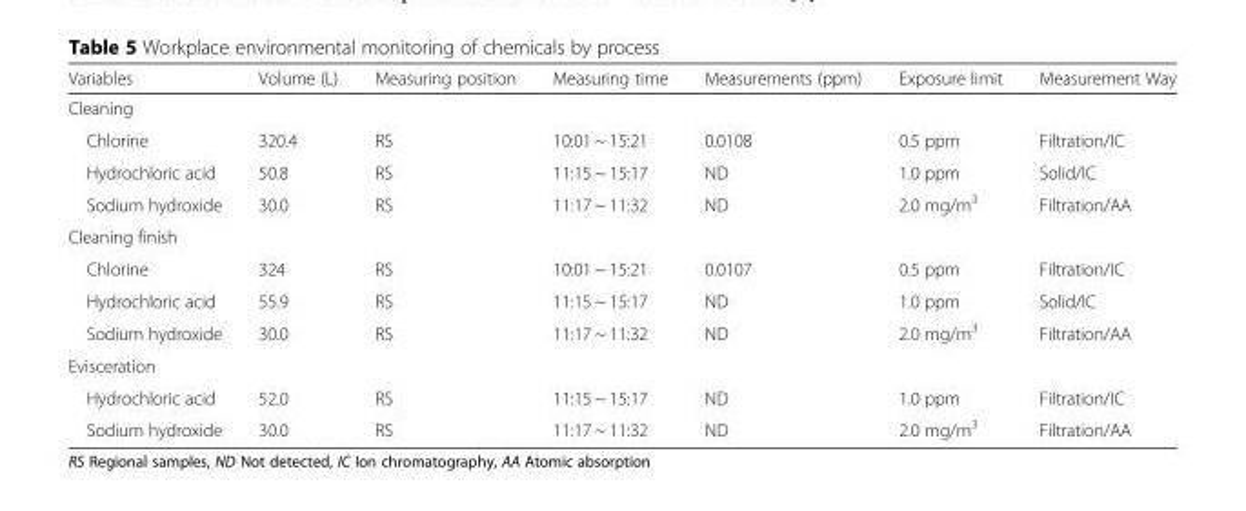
<table><thead><tr><td>Variables</td><td>Volume (L)</td><td>Measuring position</td><td>Measuring time</td><td>Measurements (ppm)</td><td>Exposure limit</td><td>Measurement Way</td></tr></thead><tbody><tr><td colspan="7">Cleaning</td></tr><tr><td>Chlorine</td><td>320.4</td><td>RS</td><td>10:01 ~ 15:21</td><td>0.0108</td><td>0.5 ppm</td><td>Filtration/IC</td></tr><tr><td>Hydrochloric acid</td><td>50.8</td><td>RS</td><td>11:15 ~ 15:17</td><td>ND</td><td>1.0 ppm</td><td>Solid/IC</td></tr><tr><td>Sodium hydroxide</td><td>30.0</td><td>RS</td><td>11:17 ~ 11:32</td><td>ND</td><td>2.0 mg/m<sup>3</sup></td><td>Filtration/AA</td></tr><tr><td colspan="7">Cleaning finish</td></tr><tr><td>Chlorine</td><td>324</td><td>RS</td><td>10:01 ~ 15:21</td><td>0.0107</td><td>0.5 ppm</td><td>Filtration/IC</td></tr><tr><td>Hydrochloric acid</td><td>55.9</td><td>RS</td><td>11:15 ~ 15:17</td><td>ND</td><td>1.0 ppm</td><td>Solid/IC</td></tr><tr><td>Sodium hydroxide</td><td>30.0</td><td>RS</td><td>11:17 ~ 11:32</td><td>ND</td><td>2.0 mg/m<sup>3</sup></td><td>Filtration/AA</td></tr><tr><td colspan="7">Evisceration</td></tr><tr><td>Hydrochloric acid</td><td>52.0</td><td>RS</td><td>11:15 ~ 15:17</td><td>ND</td><td>1.0 ppm</td><td>Filtration/IC</td></tr><tr><td>Sodium hydroxide</td><td>30.0</td><td>RS</td><td>11:17 ~ 11:32</td><td>ND</td><td>2.0 mg/m<sup>3</sup></td><td>Filtration/AA</td></tr></tbody></table>